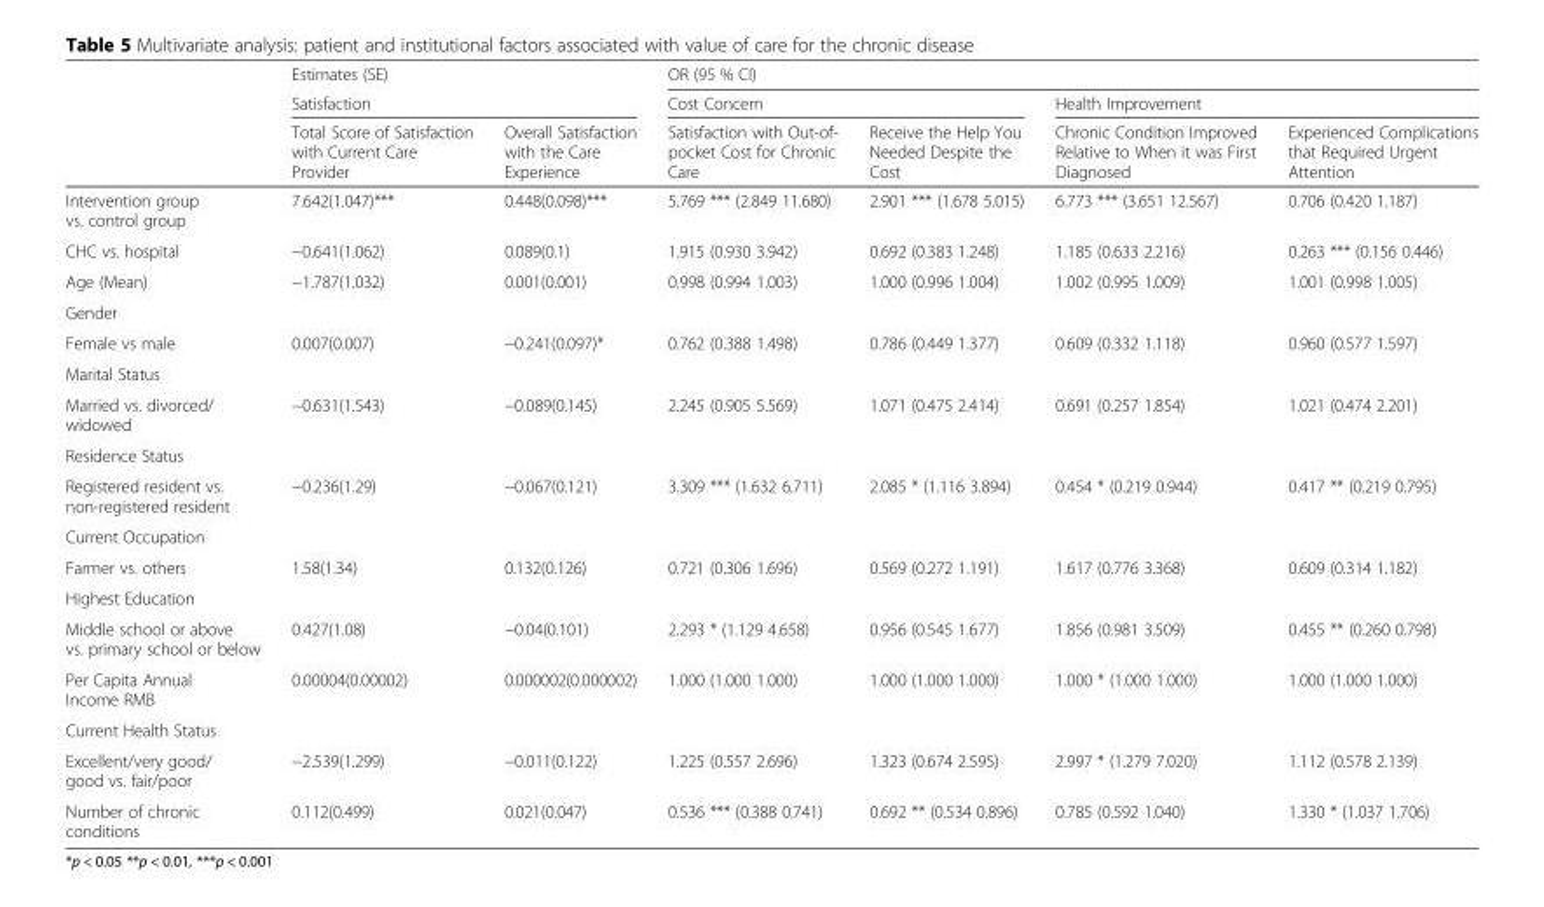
<table><thead><tr><td rowspan="3"></td><td>Estimates (SE)</td><td></td><td colspan="4">OR (95 % CI)</td></tr><tr><td colspan="2">Satisfaction</td><td colspan="2">Cost Concern</td><td colspan="2">Health Improvement</td></tr><tr><td>Total Score of Satisfaction with Current Care Provider</td><td>Overall Satisfaction with the Care Experience</td><td>Satisfaction with Out-of- pocket Cost for Chronic Care</td><td>Receive the Help You Needed Despite the Cost</td><td>Chronic Condition Improved Relative to When it was First Diagnosed</td><td>Experienced Complications that Required Urgent Attention</td></tr></thead><tbody><tr><td>Intervention group vs. control group</td><td>7.642(1.047)***</td><td>0.448(0.098)***</td><td>5.769 *** (2.849 11.680)</td><td>2.901 *** (1.678 5.015)</td><td>6.773 *** (3.651 12.567)</td><td>0.706 (0.420 1.187)</td></tr><tr><td>CHC vs. hospital</td><td>−0.641(1.062)</td><td>0.089(0.1)</td><td>1.915 (0.930 3.942)</td><td>0.692 (0.383 1.248)</td><td>1.185 (0.633 2.216)</td><td>0.263 *** (0.156 0.446)</td></tr><tr><td>Age (Mean)</td><td>−1.787(1.032)</td><td>0.001(0.001)</td><td>0.998 (0.994 1.003)</td><td>1.000 (0.996 1.004)</td><td>1.002 (0.995 1.009)</td><td>1.001 (0.998 1.005)</td></tr><tr><td colspan="7">Gender</td></tr><tr><td>Female vs male</td><td>0.007(0.007)</td><td>−0.241(0.097)*</td><td>0.762 (0.388 1.498)</td><td>0.786 (0.449 1.377)</td><td>0.609 (0.332 1.118)</td><td>0.960 (0.577 1.597)</td></tr><tr><td colspan="7">Marital Status</td></tr><tr><td>Married vs. divorced/ widowed</td><td>−0.631(1.543)</td><td>−0.089(0.145)</td><td>2.245 (0.905 5.569)</td><td>1.071 (0.475 2.414)</td><td>0.691 (0.257 1.854)</td><td>1.021 (0.474 2.201)</td></tr><tr><td colspan="7">Residence Status</td></tr><tr><td>Registered resident vs. non-registered resident</td><td>−0.236(1.29)</td><td>−0.067(0.121)</td><td>3.309 *** (1.632 6.711)</td><td>2.085 * (1.116 3.894)</td><td>0.454 * (0.219 0.944)</td><td>0.417 ** (0.219 0.795)</td></tr><tr><td colspan="7">Current Occupation</td></tr><tr><td>Farmer vs. others</td><td>1.58(1.34)</td><td>0.132(0.126)</td><td>0.721 (0.306 1.696)</td><td>0.569 (0.272 1.191)</td><td>1.617 (0.776 3.368)</td><td>0.609 (0.314 1.182)</td></tr><tr><td colspan="7">Highest Education</td></tr><tr><td>Middle school or above vs. primary school or below</td><td>0.427(1.08)</td><td>−0.04(0.101)</td><td>2.293 * (1.129 4.658)</td><td>0.956 (0.545 1.677)</td><td>1.856 (0.981 3.509)</td><td>0.455 ** (0.260 0.798)</td></tr><tr><td>Per Capita Annual Income RMB</td><td>0.00004(0.00002)</td><td>0.000002(0.000002)</td><td>1.000 (1.000 1.000)</td><td>1.000 (1.000 1.000)</td><td>1.000 * (1.000 1.000)</td><td>1.000 (1.000 1.000)</td></tr><tr><td colspan="7">Current Health Status</td></tr><tr><td>Excellent/very good/ good vs. fair/poor</td><td>−2.539(1.299)</td><td>−0.011(0.122)</td><td>1.225 (0.557 2.696)</td><td>1.323 (0.674 2.595)</td><td>2.997 * (1.279 7.020)</td><td>1.112 (0.578 2.139)</td></tr><tr><td>Number of chronic conditions</td><td>0.112(0.499)</td><td>0.021(0.047)</td><td>0.536 *** (0.388 0.741)</td><td>0.692 ** (0.534 0.896)</td><td>0.785 (0.592 1.040)</td><td>1.330 * (1.037 1.706)</td></tr></tbody></table>